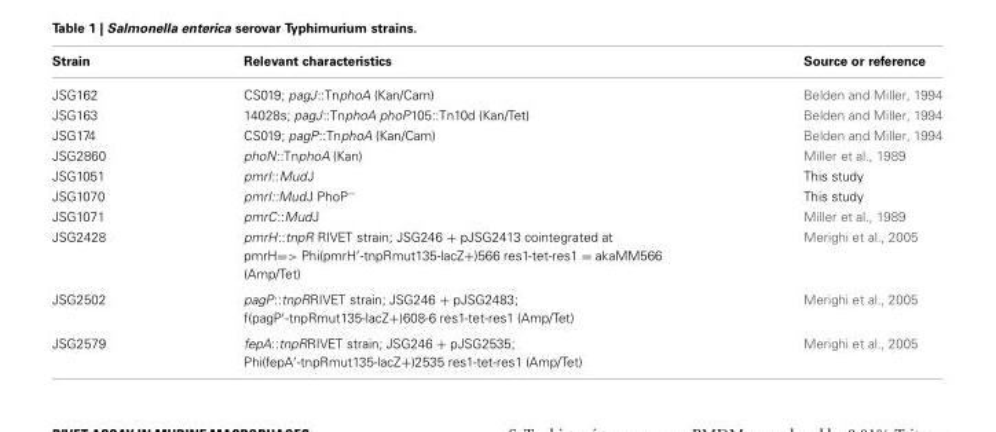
<table><thead><tr><td>Strain</td><td>Relevant characteristics</td><td>Source or reference</td></tr></thead><tbody><tr><td>JSG162</td><td>CS019; pagJ::TnphoA (Kan/Cam)</td><td>Belden and Miller, 1994</td></tr><tr><td>JSG163</td><td>14028s; pagJ::TnphoA phoP105::Tn10d (Kan/Tet)</td><td>Belden and Miller, 1994</td></tr><tr><td>JSG174</td><td>CS019; pagP::TnphoA (Kan/Cam)</td><td>Belden and Miller, 1994</td></tr><tr><td>JSG2860</td><td>phoN::TnphoA (Kan)</td><td>Miller et al., 1989</td></tr><tr><td>JSG1051</td><td>pmrI::MudJ</td><td>This study</td></tr><tr><td>JSG1070</td><td>pmrI::MudJ PhoP<sup>−</sup></td><td>This study</td></tr><tr><td>JSG1071</td><td>pmrC::MudJ</td><td>Miller et al., 1989</td></tr><tr><td>JSG2428</td><td>pmrH::tnpR RIVET strain; JSG246 + pJSG2413 cointegrated at pmrH=&gt; Phi(pmrH′-tnpRmut135-lacZ+)566 res1-tet-res1 = akaMM566 (Amp/Tet)</td><td>Merighi et al., 2005</td></tr><tr><td>JSG2502</td><td>pagP::tnpRRIVET strain; JSG246 + pJSG2483; f(pagP′-tnpRmut135-lacZ+)608-6 res1-tet-res1 (Amp/Tet)</td><td>Merighi et al., 2005</td></tr><tr><td>JSG2579</td><td>fepA::tnpRRIVET strain; JSG246 + pJSG2535; Phi(fepA′-tnpRmut135-lacZ+)2535 res1-tet-res1 (Amp/Tet)</td><td>Merighi et al., 2005</td></tr></tbody></table>